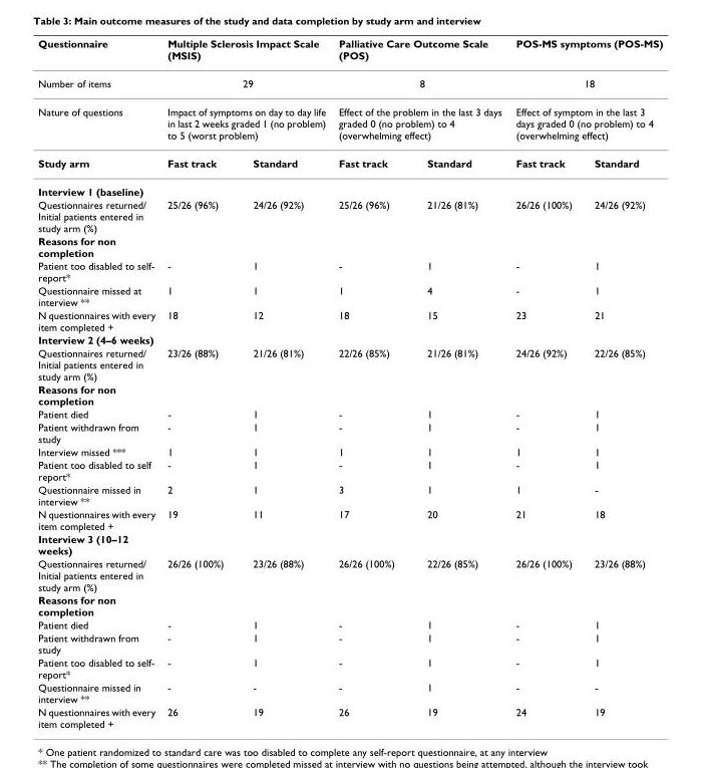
<table><thead><tr><td rowspan="4">Questionnaire Number of items Nature of questions Study arm</td><td rowspan="3" colspan="2">Multiple Sclerosis Impact Scale (MSIS) 29 Impact of symptoms on day to day life in last 2 weeks graded 1 (no problem) to 5 (worst problem)</td><td rowspan="3" colspan="2">Palliative Care Outcome Scale (POS) 8 Effect of the problem in the last 3 days graded 0 (no problem) to 4 (overwhelming effect)</td><td rowspan="3" colspan="2">POS-MS symptoms (POS-MS) 18 Effect of symptom in the last 3 days graded 0 (no problem) to 4 (overwhelming effect)</td></tr><tr></tr><tr></tr><tr><td>Fast track</td><td>Standard</td><td>Fast track</td><td>Standard</td><td>Fast track</td><td>Standard</td></tr></thead><tbody><tr><td colspan="7">Interview 1 (baseline)</td></tr><tr><td>Questionnaires returned/ Initial patients entered in study arm (%)</td><td>25/26 (96%)</td><td>24/26 (92%)</td><td>25/26 (96%)</td><td>21/26 (81%)</td><td>26/26 (100%)</td><td>24/26 (92%)</td></tr><tr><td colspan="7">Reasons for non completion</td></tr><tr><td>Patient too disabled to self- report*</td><td>-</td><td>1</td><td>-</td><td>1</td><td>-</td><td>1</td></tr><tr><td>Questionnaire missed at interview **</td><td>1</td><td>1</td><td>1</td><td>4</td><td>-</td><td>1</td></tr><tr><td>N questionnaires with every item completed +</td><td>18</td><td>12</td><td>18</td><td>15</td><td>23</td><td>21</td></tr><tr><td colspan="7">Interview 2 (4–6 weeks)</td></tr><tr><td>Questionnaires returned/ Initial patients entered in study arm (%)</td><td>23/26 (88%)</td><td>21/26 (81%)</td><td>22/26 (85%)</td><td>21/26 (81%)</td><td>24/26 (92%)</td><td>22/26 (85%)</td></tr><tr><td colspan="7">Reasons for non completion</td></tr><tr><td>Patient died</td><td>-</td><td>1</td><td>-</td><td>1</td><td>-</td><td>1</td></tr><tr><td>Patient withdrawn from study</td><td>-</td><td>1</td><td>-</td><td>1</td><td>-</td><td>1</td></tr><tr><td>Interview missed ***</td><td>1</td><td>1</td><td>1</td><td>1</td><td>1</td><td>1</td></tr><tr><td>Patient too disabled to self report*</td><td>-</td><td>1</td><td>-</td><td>1</td><td>-</td><td>1</td></tr><tr><td>Questionnaire missed in interview **</td><td>2</td><td>1</td><td>3</td><td>1</td><td>1</td><td>-</td></tr><tr><td>N questionnaires with every item completed +</td><td>19</td><td>11</td><td>17</td><td>20</td><td>21</td><td>18</td></tr><tr><td colspan="7">Interview 3 (10–12 weeks)</td></tr><tr><td>Questionnaires returned/ Initial patients entered in study arm (%)</td><td>26/26 (100%)</td><td>23/26 (88%)</td><td>26/26 (100%)</td><td>22/26 (85%)</td><td>26/26 (100%)</td><td>23/26 (88%)</td></tr><tr><td colspan="7">Reasons for non completion</td></tr><tr><td>Patient died</td><td>-</td><td>1</td><td>-</td><td>1</td><td>-</td><td>1</td></tr><tr><td>Patient withdrawn from study</td><td>-</td><td>1</td><td>-</td><td>1</td><td>-</td><td>1</td></tr><tr><td>Patient too disabled to self- report*</td><td>-</td><td>1</td><td>-</td><td>1</td><td>-</td><td>1</td></tr><tr><td>Questionnaire missed in interview **</td><td>-</td><td>-</td><td>-</td><td>1</td><td>-</td><td>-</td></tr><tr><td>N questionnaires with every item completed +</td><td>26</td><td>19</td><td>26</td><td>19</td><td>24</td><td>19</td></tr></tbody></table>